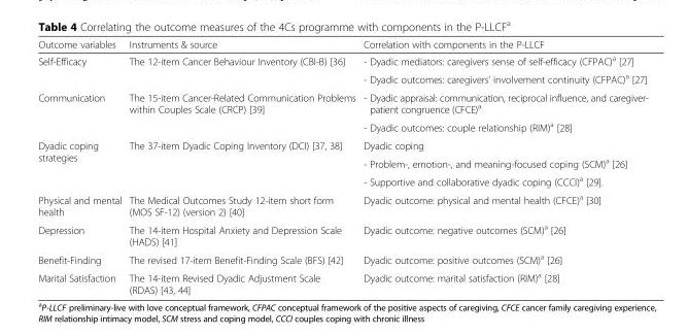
<table><thead><tr><td>Outcome variables</td><td>Instruments &amp; source</td><td>Correlation with components in the P-LLCF</td></tr></thead><tbody><tr><td rowspan="2">Self-Efficacy</td><td rowspan="2">The 12-item Cancer Behaviour Inventory (CBI-B) [36]</td><td>- Dyadic mediators: caregivers sense of self-efficacy (CFPAC)<sup>a</sup> [27]</td></tr><tr><td>- Dyadic outcomes: caregivers’ involvement continuity (CFPAC)<sup>a</sup> [27]</td></tr><tr><td rowspan="2">Communication</td><td rowspan="2">The 15-item Cancer-Related Communication Problems within Couples Scale (CRCP) [39]</td><td>- Dyadic appraisal: communication, reciprocal influence, and caregiver- patient congruence (CFCE)<sup>a</sup></td></tr><tr><td>- Dyadic outcomes: couple relationship (RIM)<sup>a</sup> [28]</td></tr><tr><td rowspan="3">Dyadic coping strategies</td><td rowspan="3">The 37-item Dyadic Coping Inventory (DCI) [37, 38]</td><td>Dyadic coping</td></tr><tr><td>- Problem-, emotion-, and meaning-focused coping (SCM)<sup>a</sup> [26]</td></tr><tr><td>- Supportive and collaborative dyadic coping (CCCI)<sup>a</sup> [29].</td></tr><tr><td>Physical and mental health</td><td>The Medical Outcomes Study 12-item short form (MOS SF-12) (version 2) [40]</td><td>Dyadic outcome: physical and mental health (CFCE)<sup>a</sup> [30]</td></tr><tr><td>Depression</td><td>The 14-item Hospital Anxiety and Depression Scale (HADS) [41]</td><td>Dyadic outcome: negative outcomes (SCM)<sup>a</sup> [26]</td></tr><tr><td>Benefit-Finding</td><td>The revised 17-item Benefit-Finding Scale (BFS) [42]</td><td>Dyadic outcome: positive outcomes (SCM)<sup>a</sup> [26]</td></tr><tr><td>Marital Satisfaction</td><td>The 14-item Revised Dyadic Adjustment Scale (RDAS) [43, 44]</td><td>Dyadic outcome: marital satisfaction (RIM)<sup>a</sup> [28]</td></tr></tbody></table>